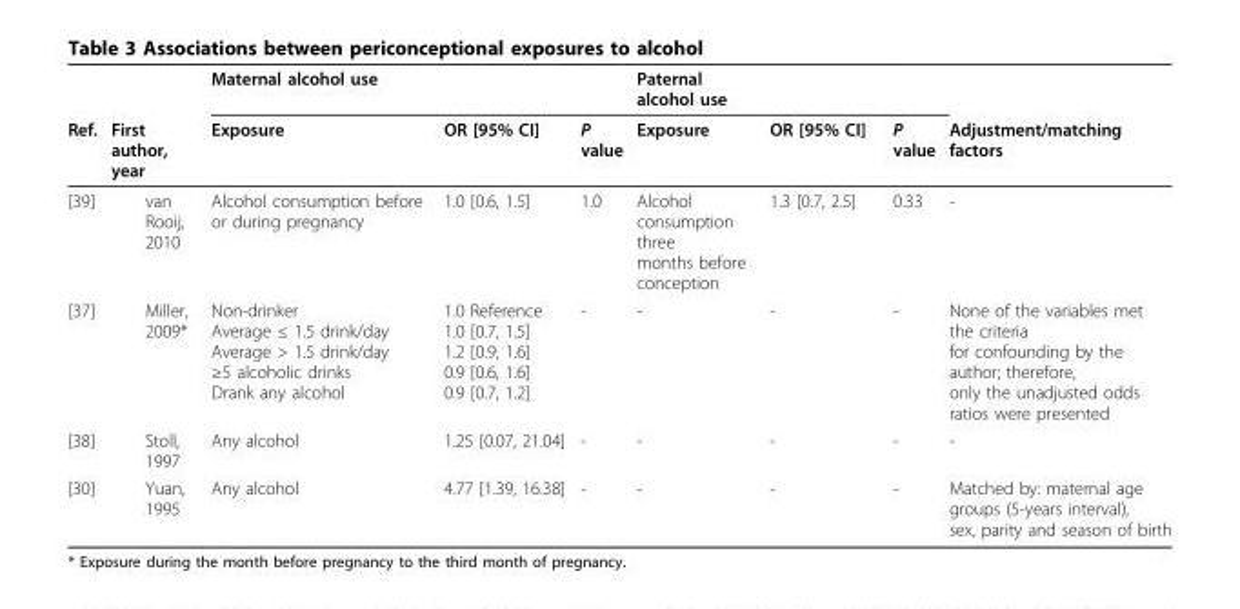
<table><thead><tr><td rowspan="2">Ref.</td><td rowspan="2">First author, year</td><td rowspan="2">Maternal alcohol use Exposure</td><td rowspan="2">OR [95% CI]</td><td rowspan="2">P value</td><td rowspan="2">Paternal alcohol use Exposure</td><td rowspan="2">OR [95% CI]</td><td rowspan="2">P value</td><td rowspan="2">Adjustment/matching factors</td></tr><tr></tr></thead><tbody><tr><td>[39]</td><td>van Rooij, 2010</td><td>Alcohol consumption before or during pregnancy</td><td>1.0 [0.6, 1.5]</td><td>1.0</td><td>Alcohol consumption three months before conception</td><td>1.3 [0.7, 2.5]</td><td>0.33</td><td>-</td></tr><tr><td>[37]</td><td>Miller, 2009*</td><td>Non-drinker Average ≤ 1.5 drink/day Average &gt; 1.5 drink/day ≥5 alcoholic drinks Drank any alcohol</td><td>1.0 Reference 1.0 [0.7, 1.5] 1.2 [0.9, 1.6] 0.9 [0.6, 1.6] 0.9 [0.7, 1.2]</td><td>-</td><td>-</td><td>-</td><td>-</td><td>None of the variables met the criteria for confounding by the author; therefore, only the unadjusted odds ratios were presented</td></tr><tr><td>[38]</td><td>Stoll, 1997</td><td>Any alcohol</td><td>1.25 [0.07, 21.04]</td><td>-</td><td>-</td><td>-</td><td>-</td><td>-</td></tr><tr><td>[30]</td><td>Yuan, 1995</td><td>Any alcohol</td><td>4.77 [1.39, 16.38]</td><td>-</td><td>-</td><td>-</td><td>-</td><td>Matched by: maternal age groups (5-years interval), sex, parity and season of birth</td></tr></tbody></table>